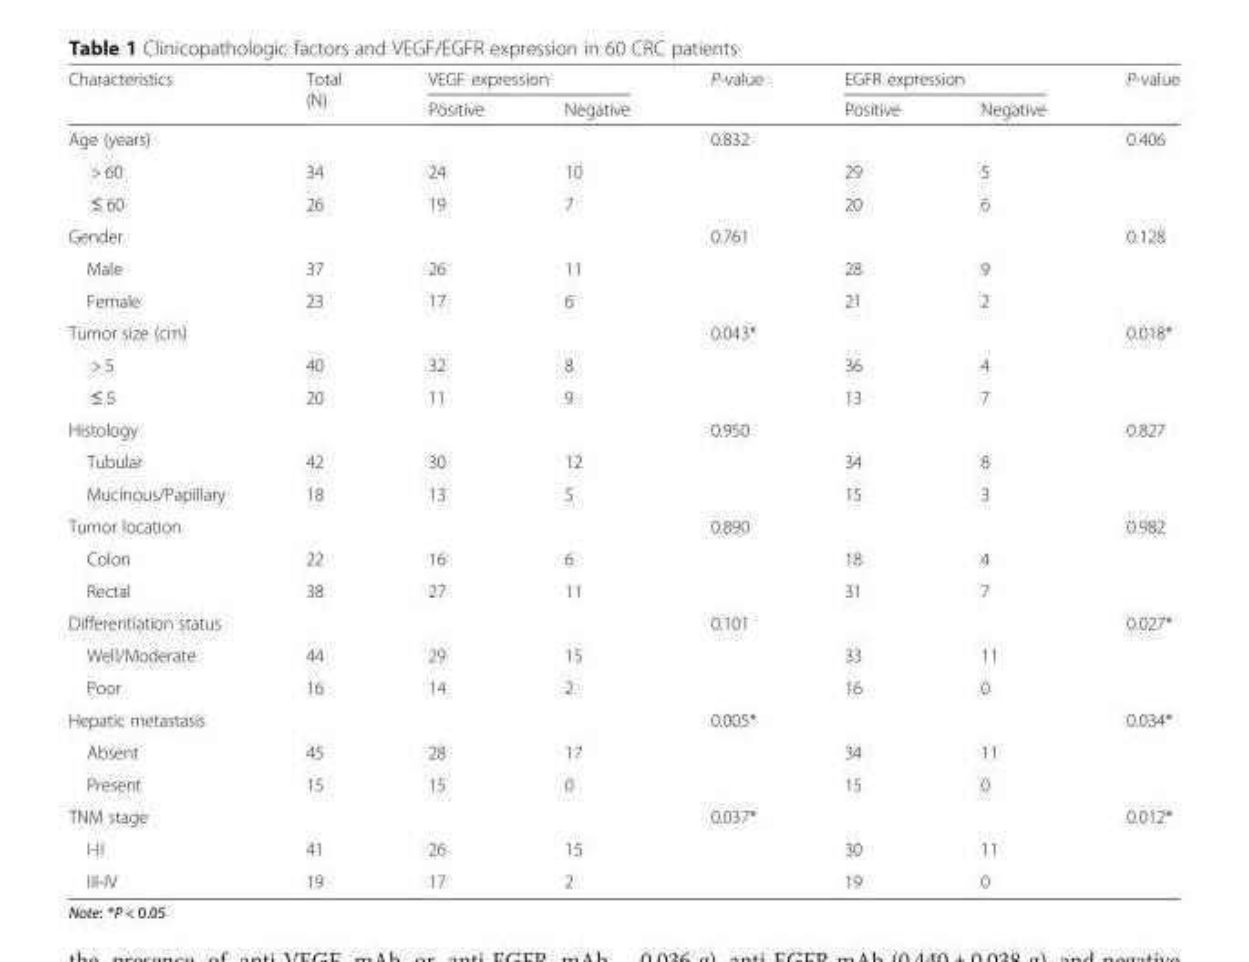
<table><thead><tr><td rowspan="2">Characteristics</td><td rowspan="2">Total (N)</td><td colspan="2">VEGF expression</td><td rowspan="2">P-value</td><td colspan="2">EGFR expression</td><td rowspan="2">P-value</td></tr><tr><td>Positive</td><td>Negative</td><td>Positive</td><td>Negative</td></tr></thead><tbody><tr><td>Age (years)</td><td></td><td></td><td></td><td>0.832</td><td></td><td></td><td>0.406</td></tr><tr><td>&gt; 60</td><td>34</td><td>24</td><td>10</td><td></td><td>29</td><td>5</td><td></td></tr><tr><td>≤ 60</td><td>26</td><td>19</td><td>7</td><td></td><td>20</td><td>6</td><td></td></tr><tr><td>Gender</td><td></td><td></td><td></td><td>0.761</td><td></td><td></td><td>0.128</td></tr><tr><td>Male</td><td>37</td><td>26</td><td>11</td><td></td><td>28</td><td>9</td><td></td></tr><tr><td>Female</td><td>23</td><td>17</td><td>6</td><td></td><td>21</td><td>2</td><td></td></tr><tr><td>Tumor size (cm)</td><td></td><td></td><td></td><td>0.043*</td><td></td><td></td><td>0.018*</td></tr><tr><td>&gt; 5</td><td>40</td><td>32</td><td>8</td><td></td><td>36</td><td>4</td><td></td></tr><tr><td>≤ 5</td><td>20</td><td>11</td><td>9</td><td></td><td>13</td><td>7</td><td></td></tr><tr><td>Histology</td><td></td><td></td><td></td><td>0.950</td><td></td><td></td><td>0.827</td></tr><tr><td>Tubular</td><td>42</td><td>30</td><td>12</td><td></td><td>34</td><td>8</td><td></td></tr><tr><td>Mucinous/Papillary</td><td>18</td><td>13</td><td>5</td><td></td><td>15</td><td>3</td><td></td></tr><tr><td>Tumor location</td><td></td><td></td><td></td><td>0.890</td><td></td><td></td><td>0.982</td></tr><tr><td>Colon</td><td>22</td><td>16</td><td>6</td><td></td><td>18</td><td>4</td><td></td></tr><tr><td>Rectal</td><td>38</td><td>27</td><td>11</td><td></td><td>31</td><td>7</td><td></td></tr><tr><td>Differentiation status</td><td></td><td></td><td></td><td>0.101</td><td></td><td></td><td>0.027*</td></tr><tr><td>Well/Moderate</td><td>44</td><td>29</td><td>15</td><td></td><td>33</td><td>11</td><td></td></tr><tr><td>Poor</td><td>16</td><td>14</td><td>2</td><td></td><td>16</td><td>0</td><td></td></tr><tr><td>Hepatic metastasis</td><td></td><td></td><td></td><td>0.005*</td><td></td><td></td><td>0.034*</td></tr><tr><td>Absent</td><td>45</td><td>28</td><td>17</td><td></td><td>34</td><td>11</td><td></td></tr><tr><td>Present</td><td>15</td><td>15</td><td>0</td><td></td><td>15</td><td>0</td><td></td></tr><tr><td>TNM stage</td><td></td><td></td><td></td><td>0.037*</td><td></td><td></td><td>0.012*</td></tr><tr><td>I-II</td><td>41</td><td>26</td><td>15</td><td></td><td>30</td><td>11</td><td></td></tr><tr><td>III-IV</td><td>19</td><td>17</td><td>2</td><td></td><td>19</td><td>0</td><td></td></tr></tbody></table>